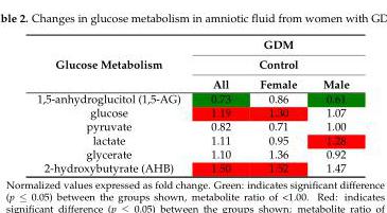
<table><thead><tr><td rowspan="3">Glucose Metabolism</td><td rowspan="2" colspan="3">GDM Control</td></tr><tr></tr><tr><td>All</td><td>Female</td><td>Male</td></tr></thead><tbody><tr><td>1,5-anhydroglucitol (1,5-AG)</td><td>0.73</td><td>0.86</td><td>0.61</td></tr><tr><td>glucose</td><td>1.19</td><td>1.30</td><td>1.07</td></tr><tr><td>pyruvate</td><td>0.82</td><td>0.71</td><td>1.00</td></tr><tr><td>lactate</td><td>1.11</td><td>0.95</td><td>1.28</td></tr><tr><td>glycerate</td><td>1.10</td><td>1.36</td><td>0.92</td></tr><tr><td>2-hydroxybutyrate (AHB)</td><td>1.50</td><td>1.52</td><td>1.47</td></tr></tbody></table>